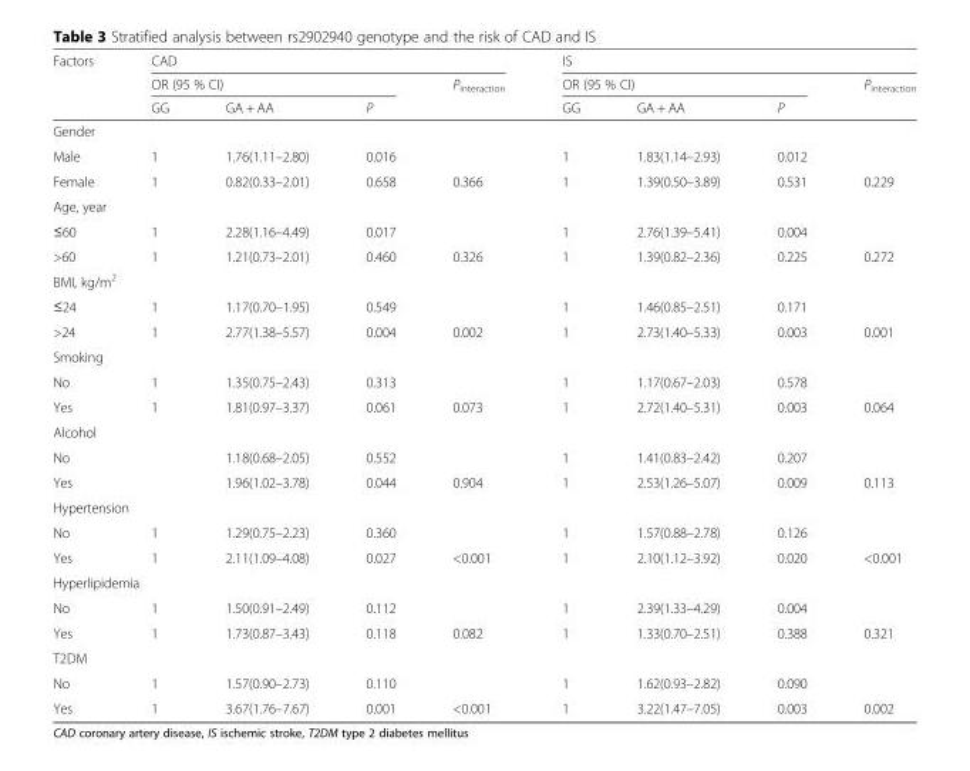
<table><thead><tr><td rowspan="3">Factors</td><td colspan="4">CAD</td><td colspan="4">IS</td></tr><tr><td colspan="3">OR (95 % CI)</td><td rowspan="2">P<sub>interaction</sub></td><td colspan="3">OR (95 % CI)</td><td rowspan="2">P<sub>interaction</sub></td></tr><tr><td>GG</td><td>GA + AA</td><td>P</td><td>GG</td><td>GA + AA</td><td>P</td></tr></thead><tbody><tr><td colspan="9">Gender</td></tr><tr><td>Male</td><td>1</td><td>1.76(1.11–2.80)</td><td>0.016</td><td></td><td>1</td><td>1.83(1.14–2.93)</td><td>0.012</td><td></td></tr><tr><td>Female</td><td>1</td><td>0.82(0.33–2.01)</td><td>0.658</td><td>0.366</td><td>1</td><td>1.39(0.50–3.89)</td><td>0.531</td><td>0.229</td></tr><tr><td colspan="9">Age, year</td></tr><tr><td>≤60</td><td>1</td><td>2.28(1.16–4.49)</td><td>0.017</td><td></td><td>1</td><td>2.76(1.39–5.41)</td><td>0.004</td><td></td></tr><tr><td>&gt;60</td><td>1</td><td>1.21(0.73–2.01)</td><td>0.460</td><td>0.326</td><td>1</td><td>1.39(0.82–2.36)</td><td>0.225</td><td>0.272</td></tr><tr><td colspan="9">BMI, kg/m<sup>2</sup></td></tr><tr><td>≤24</td><td>1</td><td>1.17(0.70–1.95)</td><td>0.549</td><td></td><td>1</td><td>1.46(0.85–2.51)</td><td>0.171</td><td></td></tr><tr><td>&gt;24</td><td>1</td><td>2.77(1.38–5.57)</td><td>0.004</td><td>0.002</td><td>1</td><td>2.73(1.40–5.33)</td><td>0.003</td><td>0.001</td></tr><tr><td colspan="9">Smoking</td></tr><tr><td>No</td><td>1</td><td>1.35(0.75–2.43)</td><td>0.313</td><td></td><td>1</td><td>1.17(0.67–2.03)</td><td>0.578</td><td></td></tr><tr><td>Yes</td><td>1</td><td>1.81(0.97–3.37)</td><td>0.061</td><td>0.073</td><td>1</td><td>2.72(1.40–5.31)</td><td>0.003</td><td>0.064</td></tr><tr><td colspan="9">Alcohol</td></tr><tr><td>No</td><td></td><td>1.18(0.68–2.05)</td><td>0.552</td><td></td><td>1</td><td>1.41(0.83–2.42)</td><td>0.207</td><td></td></tr><tr><td>Yes</td><td></td><td>1.96(1.02–3.78)</td><td>0.044</td><td>0.904</td><td>1</td><td>2.53(1.26–5.07)</td><td>0.009</td><td>0.113</td></tr><tr><td colspan="9">Hypertension</td></tr><tr><td>No</td><td>1</td><td>1.29(0.75–2.23)</td><td>0.360</td><td></td><td>1</td><td>1.57(0.88–2.78)</td><td>0.126</td><td></td></tr><tr><td>Yes</td><td>1</td><td>2.11(1.09–4.08)</td><td>0.027</td><td>&lt;0.001</td><td>1</td><td>2.10(1.12–3.92)</td><td>0.020</td><td>&lt;0.001</td></tr><tr><td colspan="9">Hyperlipidemia</td></tr><tr><td>No</td><td>1</td><td>1.50(0.91–2.49)</td><td>0.112</td><td></td><td>1</td><td>2.39(1.33–4.29)</td><td>0.004</td><td></td></tr><tr><td>Yes</td><td>1</td><td>1.73(0.87–3.43)</td><td>0.118</td><td>0.082</td><td>1</td><td>1.33(0.70–2.51)</td><td>0.388</td><td>0.321</td></tr><tr><td colspan="9">T2DM</td></tr><tr><td>No</td><td>1</td><td>1.57(0.90–2.73)</td><td>0.110</td><td></td><td>1</td><td>1.62(0.93–2.82)</td><td>0.090</td><td></td></tr><tr><td>Yes</td><td>1</td><td>3.67(1.76–7.67)</td><td>0.001</td><td>&lt;0.001</td><td>1</td><td>3.22(1.47–7.05)</td><td>0.003</td><td>0.002</td></tr></tbody></table>